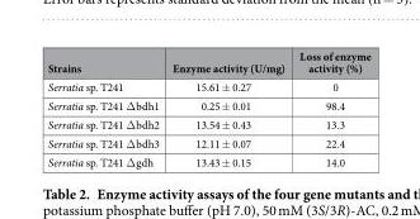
<table><thead><tr><td>Strains</td><td>Enzyme activity (U/mg)</td><td>Loss of enzyme activity (%)</td></tr></thead><tbody><tr><td>Serratia sp. T241</td><td>15.61 ± 0.27</td><td>0</td></tr><tr><td>Serratia sp. T241 Δ bdh1</td><td>0.25 ± 0.01</td><td>98.4</td></tr><tr><td>Serratia sp. T241 Δ bdh2</td><td>13.54 ± 0.43</td><td>13.3</td></tr><tr><td>Serratia sp. T241 Δ bdh3</td><td>12.11 ± 0.07</td><td>22.4</td></tr><tr><td>Serratia sp. T241 Δ gdh</td><td>13.43 ± 0.15</td><td>14.0</td></tr></tbody></table>